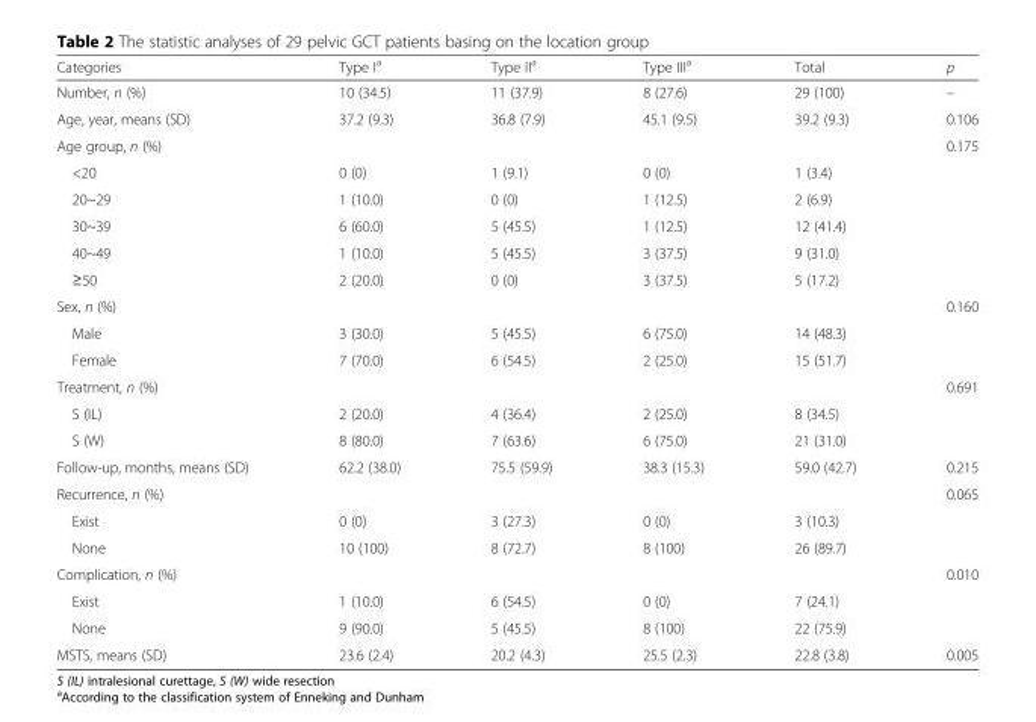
<table><thead><tr><td>Categories</td><td>Type I<sup>a</sup></td><td>Type II<sup>a</sup></td><td>Type III<sup>a</sup></td><td>Total</td><td>p</td></tr></thead><tbody><tr><td>Number, n (%)</td><td>10 (34.5)</td><td>11 (37.9)</td><td>8 (27.6)</td><td>29 (100)</td><td>–</td></tr><tr><td>Age, year, means (SD)</td><td>37.2 (9.3)</td><td>36.8 (7.9)</td><td>45.1 (9.5)</td><td>39.2 (9.3)</td><td>0.106</td></tr><tr><td>Age group, n (%)</td><td></td><td></td><td></td><td></td><td>0.175</td></tr><tr><td>&lt;20</td><td>0 (0)</td><td>1 (9.1)</td><td>0 (0)</td><td>1 (3.4)</td><td></td></tr><tr><td>20~29</td><td>1 (10.0)</td><td>0 (0)</td><td>1 (12.5)</td><td>2 (6.9)</td><td></td></tr><tr><td>30~39</td><td>6 (60.0)</td><td>5 (45.5)</td><td>1 (12.5)</td><td>12 (41.4)</td><td></td></tr><tr><td>40~49</td><td>1 (10.0)</td><td>5 (45.5)</td><td>3 (37.5)</td><td>9 (31.0)</td><td></td></tr><tr><td>≥50</td><td>2 (20.0)</td><td>0 (0)</td><td>3 (37.5)</td><td>5 (17.2)</td><td></td></tr><tr><td>Sex, n (%)</td><td></td><td></td><td></td><td></td><td>0.160</td></tr><tr><td>Male</td><td>3 (30.0)</td><td>5 (45.5)</td><td>6 (75.0)</td><td>14 (48.3)</td><td></td></tr><tr><td>Female</td><td>7 (70.0)</td><td>6 (54.5)</td><td>2 (25.0)</td><td>15 (51.7)</td><td></td></tr><tr><td>Treatment, n (%)</td><td></td><td></td><td></td><td></td><td>0.691</td></tr><tr><td>S (IL)</td><td>2 (20.0)</td><td>4 (36.4)</td><td>2 (25.0)</td><td>8 (34.5)</td><td></td></tr><tr><td>S (W)</td><td>8 (80.0)</td><td>7 (63.6)</td><td>6 (75.0)</td><td>21 (31.0)</td><td></td></tr><tr><td>Follow-up, months, means (SD)</td><td>62.2 (38.0)</td><td>75.5 (59.9)</td><td>38.3 (15.3)</td><td>59.0 (42.7)</td><td>0.215</td></tr><tr><td>Recurrence, n (%)</td><td></td><td></td><td></td><td></td><td>0.065</td></tr><tr><td>Exist</td><td>0 (0)</td><td>3 (27.3)</td><td>0 (0)</td><td>3 (10.3)</td><td></td></tr><tr><td>None</td><td>10 (100)</td><td>8 (72.7)</td><td>8 (100)</td><td>26 (89.7)</td><td></td></tr><tr><td>Complication, n (%)</td><td></td><td></td><td></td><td></td><td>0.010</td></tr><tr><td>Exist</td><td>1 (10.0)</td><td>6 (54.5)</td><td>0 (0)</td><td>7 (24.1)</td><td></td></tr><tr><td>None</td><td>9 (90.0)</td><td>5 (45.5)</td><td>8 (100)</td><td>22 (75.9)</td><td></td></tr><tr><td>MSTS, means (SD)</td><td>23.6 (2.4)</td><td>20.2 (4.3)</td><td>25.5 (2.3)</td><td>22.8 (3.8)</td><td>0.005</td></tr></tbody></table>